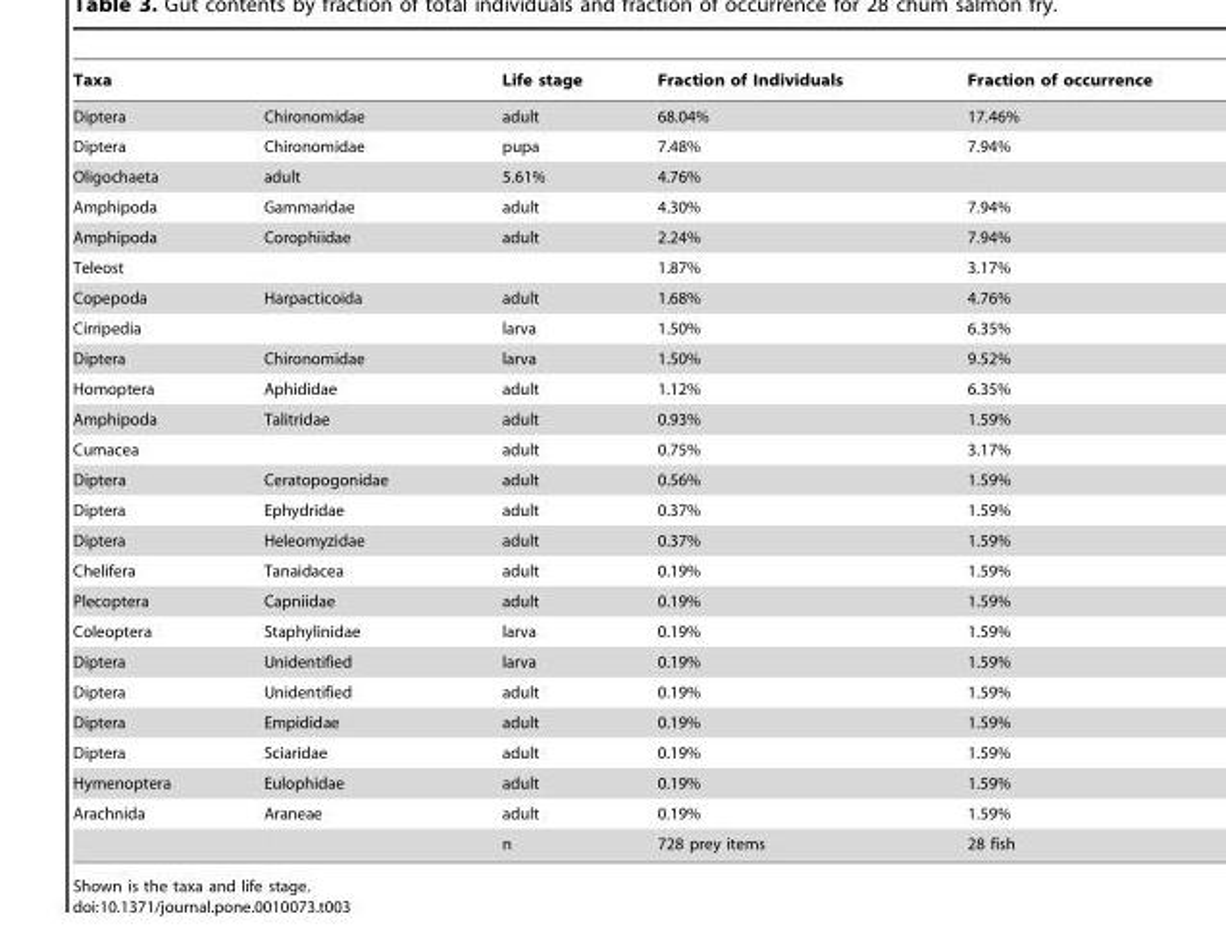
<table><thead><tr><td colspan="2">Taxa</td><td rowspan="2">Life stage adult</td><td rowspan="2">Fraction of Individuals 68.04%</td><td rowspan="2">Fraction of occurrence 17.46%</td></tr><tr><td>Diptera</td><td>Chironomidae</td></tr></thead><tbody><tr><td>Diptera</td><td>Chironomidae</td><td>pupa</td><td>7.48%</td><td>7.94%</td></tr><tr><td>Oligochaeta</td><td>adult</td><td>5.61%</td><td>4.76%</td><td></td></tr><tr><td>Amphipoda</td><td>Gammaridae</td><td>adult</td><td>4.30%</td><td>7.94%</td></tr><tr><td>Amphipoda</td><td>Corophiidae</td><td>adult</td><td>2.24%</td><td>7.94%</td></tr><tr><td>Teleost</td><td></td><td></td><td>1.87%</td><td>3.17%</td></tr><tr><td>Copepoda</td><td>Harpacticoida</td><td>adult</td><td>1.68%</td><td>4.76%</td></tr><tr><td>Cirripedia</td><td></td><td>larva</td><td>1.50%</td><td>6.35%</td></tr><tr><td>Diptera</td><td>Chironomidae</td><td>larva</td><td>1.50%</td><td>9.52%</td></tr><tr><td>Homoptera</td><td>Aphididae</td><td>adult</td><td>1.12%</td><td>6.35%</td></tr><tr><td>Amphipoda</td><td>Talitridae</td><td>adult</td><td>0.93%</td><td>1.59%</td></tr><tr><td>Cumacea</td><td></td><td>adult</td><td>0.75%</td><td>3.17%</td></tr><tr><td>Diptera</td><td>Ceratopogonidae</td><td>adult</td><td>0.56%</td><td>1.59%</td></tr><tr><td>Diptera</td><td>Ephydridae</td><td>adult</td><td>0.37%</td><td>1.59%</td></tr><tr><td>Diptera</td><td>Heleomyzidae</td><td>adult</td><td>0.37%</td><td>1.59%</td></tr><tr><td>Chelifera</td><td>Tanaidacea</td><td>adult</td><td>0.19%</td><td>1.59%</td></tr><tr><td>Plecoptera</td><td>Capniidae</td><td>adult</td><td>0.19%</td><td>1.59%</td></tr><tr><td>Coleoptera</td><td>Staphylinidae</td><td>larva</td><td>0.19%</td><td>1.59%</td></tr><tr><td>Diptera</td><td>Unidentified</td><td>larva</td><td>0.19%</td><td>1.59%</td></tr><tr><td>Diptera</td><td>Unidentified</td><td>adult</td><td>0.19%</td><td>1.59%</td></tr><tr><td>Diptera</td><td>Empididae</td><td>adult</td><td>0.19%</td><td>1.59%</td></tr><tr><td>Diptera</td><td>Sciaridae</td><td>adult</td><td>0.19%</td><td>1.59%</td></tr><tr><td>Hymenoptera</td><td>Eulophidae</td><td>adult</td><td>0.19%</td><td>1.59%</td></tr><tr><td rowspan="2">Arachnida</td><td>Araneae</td><td>adult</td><td>0.19%</td><td>1.59%</td></tr><tr><td></td><td>n</td><td>728 prey items</td><td>28 fish</td></tr></tbody></table>